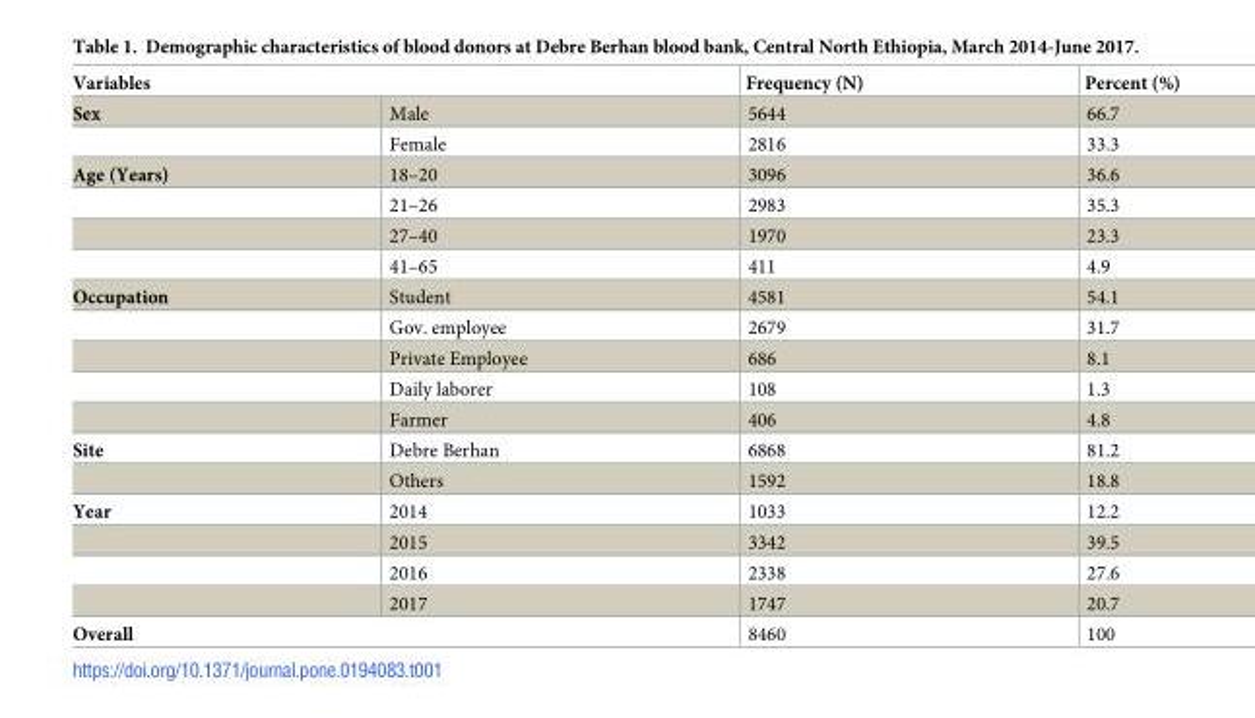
<table><thead><tr><td colspan="2">Variables</td><td rowspan="2">Frequency (N) 5644</td><td rowspan="2">Percent (%) 66.7</td></tr><tr><td>Sex</td><td>Male</td></tr></thead><tbody><tr><td></td><td>Female</td><td>2816</td><td>33.3</td></tr><tr><td rowspan="4">Age (Years)</td><td>18–20</td><td>3096</td><td>36.6</td></tr><tr><td>21–26</td><td>2983</td><td>35.3</td></tr><tr><td>27–40</td><td>1970</td><td>23.3</td></tr><tr><td>41–65</td><td>411</td><td>4.9</td></tr><tr><td rowspan="5">Occupation</td><td>Student</td><td>4581</td><td>54.1</td></tr><tr><td>Gov. employee</td><td>2679</td><td>31.7</td></tr><tr><td>Private Employee</td><td>686</td><td>8.1</td></tr><tr><td>Daily laborer</td><td>108</td><td>1.3</td></tr><tr><td>Farmer</td><td>406</td><td>4.8</td></tr><tr><td rowspan="2">Site</td><td>Debre Berhan</td><td>6868</td><td>81.2</td></tr><tr><td>Others</td><td>1592</td><td>18.8</td></tr><tr><td rowspan="4">Year</td><td>2014</td><td>1033</td><td>12.2</td></tr><tr><td>2015</td><td>3342</td><td>39.5</td></tr><tr><td>2016</td><td>2338</td><td>27.6</td></tr><tr><td>2017</td><td>1747</td><td>20.7</td></tr><tr><td colspan="2">Overall</td><td>8460</td><td>100</td></tr></tbody></table>